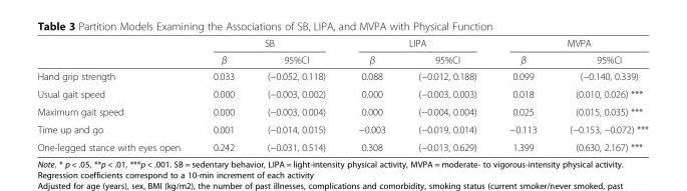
<table><thead><tr><td rowspan="2"></td><td colspan="2">SB</td><td colspan="2">LIPA</td><td colspan="2">MVPA</td></tr><tr><td>β</td><td>95%CI</td><td>β</td><td>95%CI</td><td>β</td><td>95%CI</td></tr></thead><tbody><tr><td>Hand grip strength</td><td>0.033</td><td>(−0.052, 0.118)</td><td>0.088</td><td>(−0.012, 0.188)</td><td>0.099</td><td>(−0.140, 0.339)</td></tr><tr><td>Usual gait speed</td><td>0.000</td><td>(−0.003, 0.002)</td><td>0.000</td><td>(−0.003, 0.003)</td><td>0.018</td><td>(0.010, 0.026) ***</td></tr><tr><td>Maximum gait speed</td><td>0.000</td><td>(−0.003, 0.004)</td><td>0.000</td><td>(−0.004, 0.004)</td><td>0.025</td><td>(0.015, 0.035) ***</td></tr><tr><td>Time up and go</td><td>0.001</td><td>(−0.014, 0.015)</td><td>−0.003</td><td>(−0.019, 0.014)</td><td>−0.113</td><td>(−0.153, −0.072) ***</td></tr><tr><td>One-legged stance with eyes open</td><td>0.242</td><td>(−0.031, 0.514)</td><td>0.308</td><td>(−0.013, 0.629)</td><td>1.399</td><td>(0.630, 2.167) ***</td></tr></tbody></table>